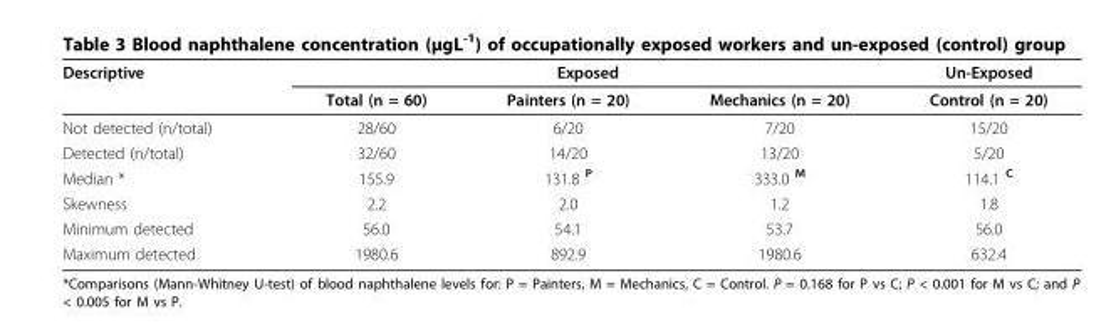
<table><thead><tr><td rowspan="2">Descriptive</td><td colspan="3">Exposed</td><td rowspan="2">Un-Exposed Control (n = 20)</td></tr><tr><td>Total (n = 60)</td><td>Painters (n = 20)</td><td>Mechanics (n = 20)</td></tr></thead><tbody><tr><td>Not detected (n/total)</td><td>28/60</td><td>6/20</td><td>7/20</td><td>15/20</td></tr><tr><td>Detected (n/total)</td><td>32/60</td><td>14/20</td><td>13/20</td><td>5/20</td></tr><tr><td>Median *</td><td>155.9</td><td>131.8 <sup>P</sup></td><td>333.0 <sup>M</sup></td><td>114.1 <sup>C</sup></td></tr><tr><td>Skewness</td><td>2.2</td><td>2.0</td><td>1.2</td><td>1.8</td></tr><tr><td>Minimum detected</td><td>56.0</td><td>54.1</td><td>53.7</td><td>56.0</td></tr><tr><td>Maximum detected</td><td>1980.6</td><td>892.9</td><td>1980.6</td><td>632.4</td></tr></tbody></table>